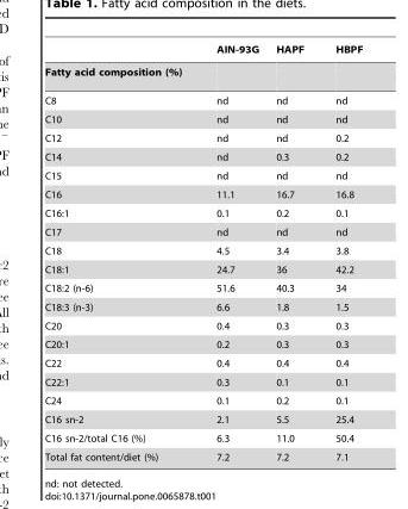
<table><thead><tr><td></td><td>AIN-93G</td><td>HAPF</td><td>HBPF</td></tr></thead><tbody><tr><td colspan="4">Fatty acid composition (%)</td></tr><tr><td>C8</td><td>nd</td><td>nd</td><td>nd</td></tr><tr><td>C10</td><td>nd</td><td>nd</td><td>nd</td></tr><tr><td>C12</td><td>nd</td><td>nd</td><td>0.2</td></tr><tr><td>C14</td><td>nd</td><td>0.3</td><td>0.2</td></tr><tr><td>C15</td><td>nd</td><td>nd</td><td>nd</td></tr><tr><td>C16</td><td>11.1</td><td>16.7</td><td>16.8</td></tr><tr><td>C16:1</td><td>0.1</td><td>0.2</td><td>0.1</td></tr><tr><td>C17</td><td>nd</td><td>nd</td><td>nd</td></tr><tr><td>C18</td><td>4.5</td><td>3.4</td><td>3.8</td></tr><tr><td>C18:1</td><td>24.7</td><td>36</td><td>42.2</td></tr><tr><td>C18:2 (n-6)</td><td>51.6</td><td>40.3</td><td>34</td></tr><tr><td>C18:3 (n-3)</td><td>6.6</td><td>1.8</td><td>1.5</td></tr><tr><td>C20</td><td>0.4</td><td>0.3</td><td>0.3</td></tr><tr><td>C20:1</td><td>0.2</td><td>0.3</td><td>0.3</td></tr><tr><td>C22</td><td>0.4</td><td>0.4</td><td>0.4</td></tr><tr><td>C22:1</td><td>0.3</td><td>0.1</td><td>0.1</td></tr><tr><td>C24</td><td>0.1</td><td>0.2</td><td>0.1</td></tr><tr><td>C16 sn-2</td><td>2.1</td><td>5.5</td><td>25.4</td></tr><tr><td>C16 sn-2/total C16 (%)</td><td>6.3</td><td>11.0</td><td>50.4</td></tr><tr><td>Total fat content/diet (%)</td><td>7.2</td><td>7.2</td><td>7.1</td></tr></tbody></table>